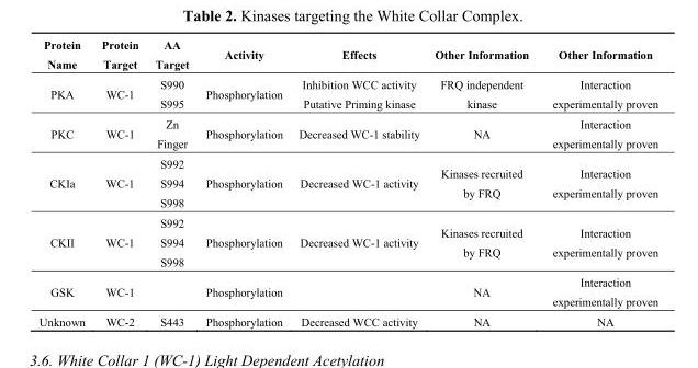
<table><thead><tr><td>Protein Name</td><td>Protein Target</td><td>AA Target</td><td>Activity</td><td>Effects</td><td>Other Information</td><td>Other Information</td></tr></thead><tbody><tr><td>PKA</td><td>WC-1</td><td>S990 S995</td><td>Phosphorylation</td><td>Inhibition WCC activity Putative Priming kinase</td><td>FRQ independent kinase</td><td>Interaction experimentally proven</td></tr><tr><td>PKC</td><td>WC-1</td><td>Zn Finger</td><td>Phosphorylation</td><td>Decreased WC-1 stability</td><td>NA</td><td>Interaction experimentally proven</td></tr><tr><td>CKIa</td><td>WC-1</td><td>S992 S994 S998</td><td>Phosphorylation</td><td>Decreased WC-1 activity</td><td>Kinases recruited by FRQ</td><td>Interaction experimentally proven</td></tr><tr><td>CKII</td><td>WC-1</td><td>S992 S994 S998</td><td>Phosphorylation</td><td>Decreased WC-1 activity</td><td>Kinases recruited by FRQ</td><td>Interaction experimentally proven</td></tr><tr><td>GSK</td><td>WC-1</td><td></td><td>Phosphorylation</td><td></td><td>NA</td><td>Interaction experimentally proven</td></tr><tr><td>Unknown</td><td>WC-2</td><td>S443</td><td>Phosphorylation</td><td>Decreased WCC activity</td><td>NA</td><td>NA</td></tr></tbody></table>